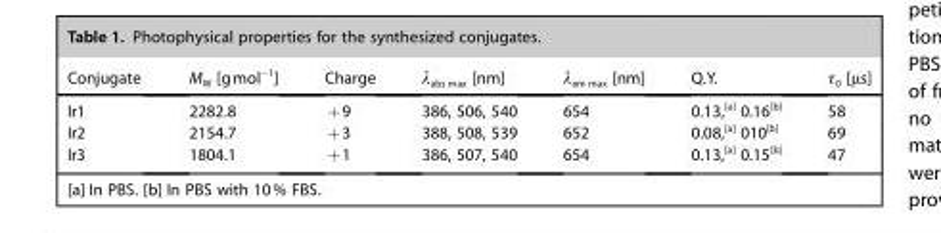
<table><thead><tr><td>Conjugate</td><td>M<sub>W</sub> [gmol<sup>−1</sup>]</td><td>Charge</td><td>λ<sub>abs max</sub> [nm]</td><td>λ<sub>em max</sub> [nm]</td><td>Q.Y.</td><td>τ<sub>0</sub> [μs]</td></tr></thead><tbody><tr><td>Ir1</td><td>2282.8</td><td>+9</td><td>386, 506, 540</td><td>654</td><td>0.13,[a] 0.16[b]</td><td>58</td></tr><tr><td>Ir2</td><td>2154.7</td><td>+3</td><td>388, 508, 539</td><td>652</td><td>0.08,[a] 010[b]</td><td>69</td></tr><tr><td>Ir3</td><td>1804.1</td><td>+1</td><td>386, 507, 540</td><td>654</td><td>0.13,[a] 0.15[b]</td><td>47</td></tr></tbody></table>